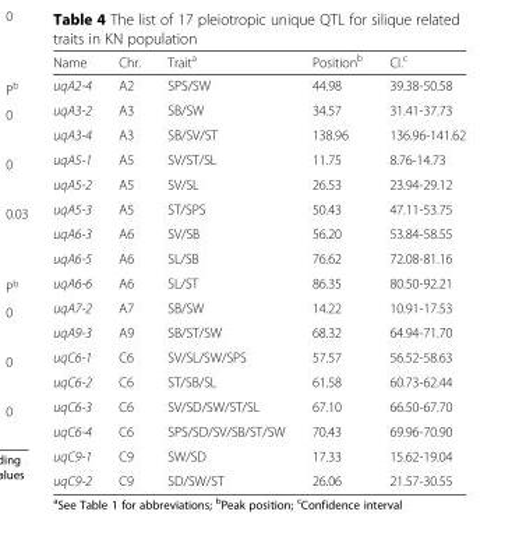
<table><thead><tr><td>Name</td><td>Chr.</td><td>Trait<sup>a</sup></td><td>Position<sup>b</sup></td><td>CI.<sup>c</sup></td></tr></thead><tbody><tr><td>uqA2-4</td><td>A2</td><td>SPS/SW</td><td>44.98</td><td>39.38-50.58</td></tr><tr><td>uqA3-2</td><td>A3</td><td>SB/SW</td><td>34.57</td><td>31.41-37.73</td></tr><tr><td>uqA3-4</td><td>A3</td><td>SB/SV/ST</td><td>138.96</td><td>136.96-141.62</td></tr><tr><td>uqA5-1</td><td>A5</td><td>SV/ST/SL</td><td>11.75</td><td>8.76-14.73</td></tr><tr><td>uqA5-2</td><td>A5</td><td>SV/SL</td><td>26.53</td><td>23.94-29.12</td></tr><tr><td>uqA5-3</td><td>A5</td><td>ST/SPS</td><td>50.43</td><td>47.11-53.75</td></tr><tr><td>uqA6-3</td><td>A6</td><td>SV/SB</td><td>56.20</td><td>53.84-58.55</td></tr><tr><td>uqA6-5</td><td>A6</td><td>SL/SB</td><td>76.62</td><td>72.08-81.16</td></tr><tr><td>uqA6-6</td><td>A6</td><td>SL/ST</td><td>86.35</td><td>80.50-92.21</td></tr><tr><td>uqA7-2</td><td>A7</td><td>SB/SW</td><td>14.22</td><td>10.91-17.53</td></tr><tr><td>uqA9-3</td><td>A9</td><td>SB/ST/SW</td><td>68.32</td><td>64.94-71.70</td></tr><tr><td>uqC6-1</td><td>C6</td><td>SV/SL/SW/SPS</td><td>57.57</td><td>56.52-58.63</td></tr><tr><td>uqC6-2</td><td>C6</td><td>ST/SB/SL</td><td>61.58</td><td>60.73-62.44</td></tr><tr><td>uqC6-3</td><td>C6</td><td>SV/SD/SW/ST/SL</td><td>67.10</td><td>66.50-67.70</td></tr><tr><td>uqC6-4</td><td>C6</td><td>SPS/SD/SV/SB/ST/SW</td><td>70.43</td><td>69.96-70.90</td></tr><tr><td>uqC9-1</td><td>C9</td><td>SW/SD</td><td>17.33</td><td>15.62-19.04</td></tr><tr><td>uqC9-2</td><td>C9</td><td>SD/SW/ST</td><td>26.06</td><td>21.57-30.55</td></tr></tbody></table>